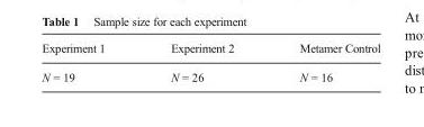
<table><thead><tr><td>Experiment 1</td><td>Experiment 2</td><td>Metamer Control</td></tr></thead><tbody><tr><td>N = 19</td><td>N = 26</td><td>N = 16</td></tr></tbody></table>